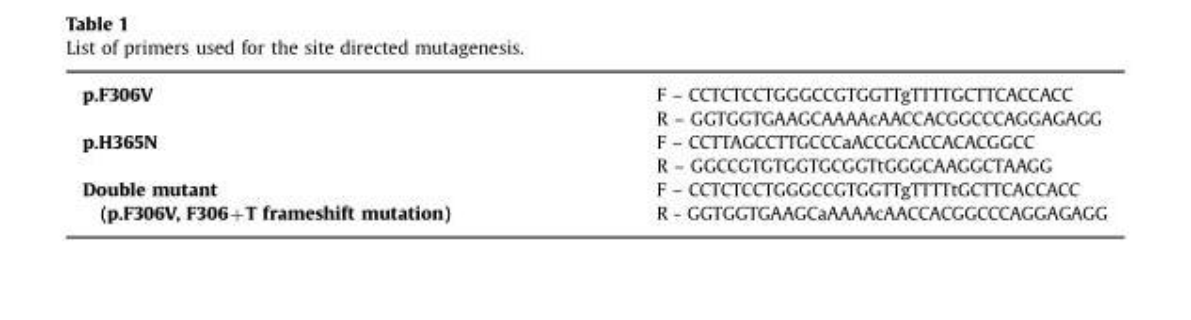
<table><tbody><tr><td rowspan="2">p.F306V</td><td>F – CCTCTCCTGGGCCGTGGTTgTTTTGCTTCACCACC</td></tr><tr><td>R – GGTGGTGAAGCAAAAcAACCACGGCCCAGGAGAGG</td></tr><tr><td rowspan="2">p.H365N</td><td>F – CCTTAGCCTTGCCCaACCGCACCACACGGCC</td></tr><tr><td>R – GGCCGTGTGGTGCGGTtGGGCAAGGCTAAGG</td></tr><tr><td rowspan="2">Double mutant (p.F306V, F306+T frameshift mutation)</td><td>F – CCTCTCCTGGGCCGTGGTTgTTTTtGCTTCACCACC</td></tr><tr><td>R - GGTGGTGAAGCaAAAAcAACCACGGCCCAGGAGAGG</td></tr></tbody></table>